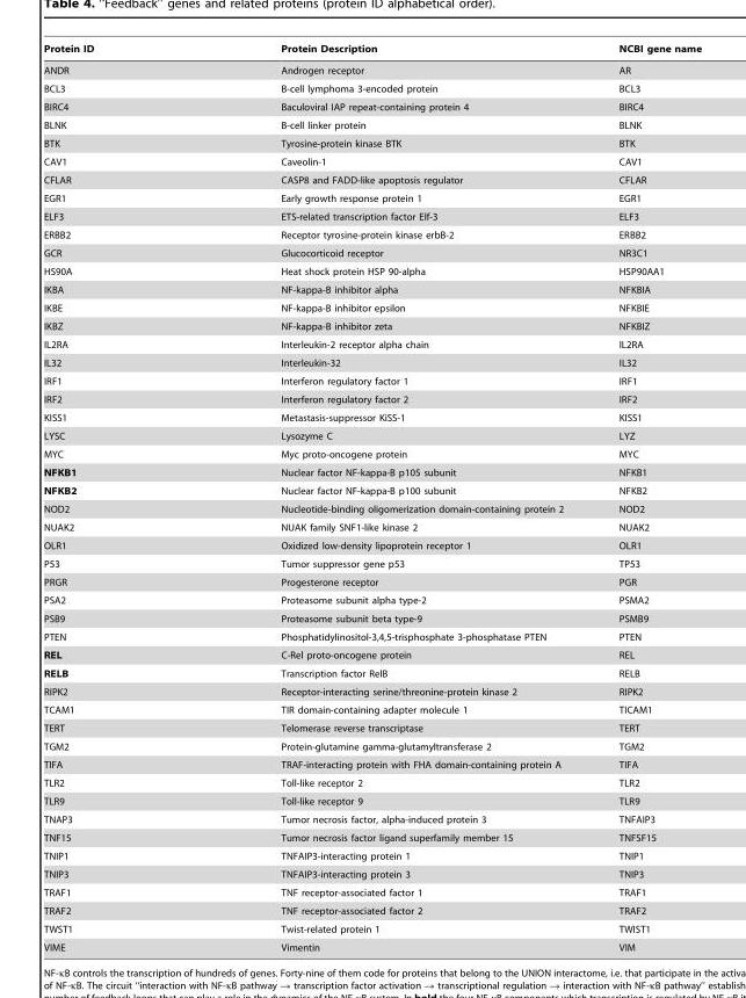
<table><thead><tr><td>Protein ID</td><td>Protein Description</td><td>NCBI gene name</td></tr></thead><tbody><tr><td>ANDR</td><td>Androgen receptor</td><td>AR</td></tr><tr><td>BCL3</td><td>B-cell lymphoma 3-encoded protein</td><td>BCL3</td></tr><tr><td>BIRC4</td><td>Baculoviral IAP repeat-containing protein 4</td><td>BIRC4</td></tr><tr><td>BLNK</td><td>B-cell linker protein</td><td>BLNK</td></tr><tr><td>BTK</td><td>Tyrosine-protein kinase BTK</td><td>BTK</td></tr><tr><td>CAV1</td><td>Caveolin-1</td><td>CAV1</td></tr><tr><td>CFLAR</td><td>CASP8 and FADD-like apoptosis regulator</td><td>CFLAR</td></tr><tr><td>EGR1</td><td>Early growth response protein 1</td><td>EGR1</td></tr><tr><td>ELF3</td><td>ETS-related transcription factor Elf-3</td><td>ELF3</td></tr><tr><td>ERBB2</td><td>Receptor tyrosine-protein kinase erbB-2</td><td>ERBB2</td></tr><tr><td>GCR</td><td>Glucocorticoid receptor</td><td>NR3C1</td></tr><tr><td>HS90A</td><td>Heat shock protein HSP 90-alpha</td><td>HSP90AA1</td></tr><tr><td>IKBA</td><td>NF-kappa-B inhibitor alpha</td><td>NFKBIA</td></tr><tr><td>IKBE</td><td>NF-kappa-B inhibitor epsilon</td><td>NFKBIE</td></tr><tr><td>IKBZ</td><td>NF-kappa-B inhibitor zeta</td><td>NFKBIZ</td></tr><tr><td>IL2RA</td><td>Interleukin-2 receptor alpha chain</td><td>IL2RA</td></tr><tr><td>IL32</td><td>Interleukin-32</td><td>IL32</td></tr><tr><td>IRF1</td><td>Interferon regulatory factor 1</td><td>IRF1</td></tr><tr><td>IRF2</td><td>Interferon regulatory factor 2</td><td>IRF2</td></tr><tr><td>KISS1</td><td>Metastasis-suppressor KiSS-1</td><td>KISS1</td></tr><tr><td>LYSC</td><td>Lysozyme C</td><td>LYZ</td></tr><tr><td>MYC</td><td>Myc proto-oncogene protein</td><td>MYC</td></tr><tr><td>NFKB1</td><td>Nuclear factor NF-kappa-B p105 subunit</td><td>NFKB1</td></tr><tr><td>NFKB2</td><td>Nuclear factor NF-kappa-B p100 subunit</td><td>NFKB2</td></tr><tr><td>NOD2</td><td>Nucleotide-binding oligomerization domain-containing protein 2</td><td>NOD2</td></tr><tr><td>NUAK2</td><td>NUAK family SNF1-like kinase 2</td><td>NUAK2</td></tr><tr><td>OLR1</td><td>Oxidized low-density lipoprotein receptor 1</td><td>OLR1</td></tr><tr><td>P53</td><td>Tumor suppressor gene p53</td><td>TP53</td></tr><tr><td>PRGR</td><td>Progesterone receptor</td><td>PGR</td></tr><tr><td>PSA2</td><td>Proteasome subunit alpha type-2</td><td>PSMA2</td></tr><tr><td>PSB9</td><td>Proteasome subunit beta type-9</td><td>PSMB9</td></tr><tr><td>PTEN</td><td>Phosphatidylinositol-3,4,5-trisphosphate 3-phosphatase PTEN</td><td>PTEN</td></tr><tr><td>REL</td><td>C-Rel proto-oncogene protein</td><td>REL</td></tr><tr><td>RELB</td><td>Transcription factor RelB</td><td>RELB</td></tr><tr><td>RIPK2</td><td>Receptor-interacting serine/threonine-protein kinase 2</td><td>RIPK2</td></tr><tr><td>TCAM1</td><td>TIR domain-containing adapter molecule 1</td><td>TICAM1</td></tr><tr><td>TERT</td><td>Telomerase reverse transcriptase</td><td>TERT</td></tr><tr><td>TGM2</td><td>Protein-glutamine gamma-glutamyltransferase 2</td><td>TGM2</td></tr><tr><td>TIFA</td><td>TRAF-interacting protein with FHA domain-containing protein A</td><td>TIFA</td></tr><tr><td>TLR2</td><td>Toll-like receptor 2</td><td>TLR2</td></tr><tr><td>TLR9</td><td>Toll-like receptor 9</td><td>TLR9</td></tr><tr><td>TNAP3</td><td>Tumor necrosis factor, alpha-induced protein 3</td><td>TNFAIP3</td></tr><tr><td>TNF15</td><td>Tumor necrosis factor ligand superfamily member 15</td><td>TNFSF15</td></tr><tr><td>TNIP1</td><td>TNFAIP3-interacting protein 1</td><td>TNIP1</td></tr><tr><td>TNIP3</td><td>TNFAIP3-interacting protein 3</td><td>TNIP3</td></tr><tr><td>TRAF1</td><td>TNF receptor-associated factor 1</td><td>TRAF1</td></tr><tr><td>TRAF2</td><td>TNF receptor-associated factor 2</td><td>TRAF2</td></tr><tr><td>TWST1</td><td>Twist-related protein 1</td><td>TWIST1</td></tr><tr><td>VIME</td><td>Vimentin</td><td>VIM</td></tr></tbody></table>